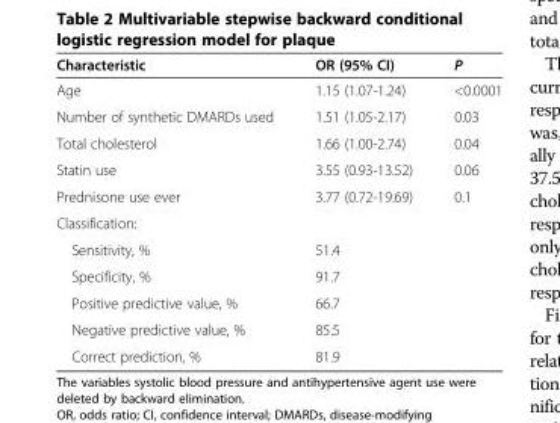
<table><thead><tr><td>Characteristic</td><td>OR (95% CI)</td><td>P</td></tr></thead><tbody><tr><td>Age</td><td>1.15 (1.07-1.24)</td><td>&lt;0.0001</td></tr><tr><td>Number of synthetic DMARDs used</td><td>1.51 (1.05-2.17)</td><td>0.03</td></tr><tr><td>Total cholesterol</td><td>1.66 (1.00-2.74)</td><td>0.04</td></tr><tr><td>Statin use</td><td>3.55 (0.93-13.52)</td><td>0.06</td></tr><tr><td>Prednisone use ever</td><td>3.77 (0.72-19.69)</td><td>0.1</td></tr><tr><td colspan="3">Classification:</td></tr><tr><td>Sensitivity, %</td><td>51.4</td><td></td></tr><tr><td>Specificity, %</td><td>91.7</td><td></td></tr><tr><td>Positive predictive value, %</td><td>66.7</td><td></td></tr><tr><td>Negative predictive value, %</td><td>85.5</td><td></td></tr><tr><td>Correct prediction, %</td><td>81.9</td><td></td></tr></tbody></table>